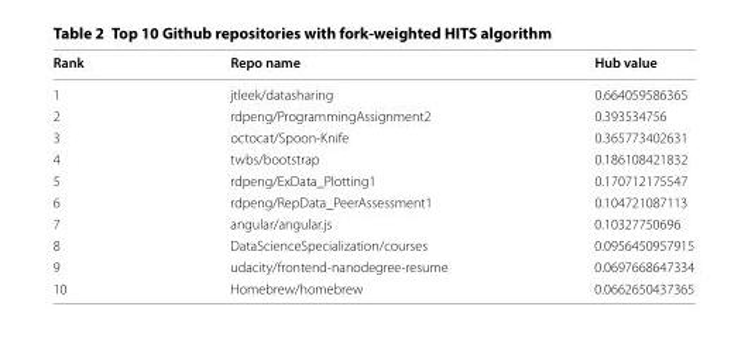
<table><thead><tr><td>Rank</td><td>Repo name</td><td>Hub value</td></tr></thead><tbody><tr><td>1</td><td>jtleek/datasharing</td><td>0.664059586365</td></tr><tr><td>2</td><td>rdpeng/ProgrammingAssignment2</td><td>0.393534756</td></tr><tr><td>3</td><td>octocat/Spoon-Knife</td><td>0.365773402631</td></tr><tr><td>4</td><td>twbs/bootstrap</td><td>0.186108421832</td></tr><tr><td>5</td><td>rdpeng/ExData_Plotting1</td><td>0.170712175547</td></tr><tr><td>6</td><td>rdpeng/RepData_PeerAssessment1</td><td>0.104721087113</td></tr><tr><td>7</td><td>angular/angular.js</td><td>0.10327750696</td></tr><tr><td>8</td><td>DataScienceSpecialization/courses</td><td>0.0956450957915</td></tr><tr><td>9</td><td>udacity/frontend-nanodegree-resume</td><td>0.0697668647334</td></tr><tr><td>10</td><td>Homebrew/homebrew</td><td>0.0662650437365</td></tr></tbody></table>